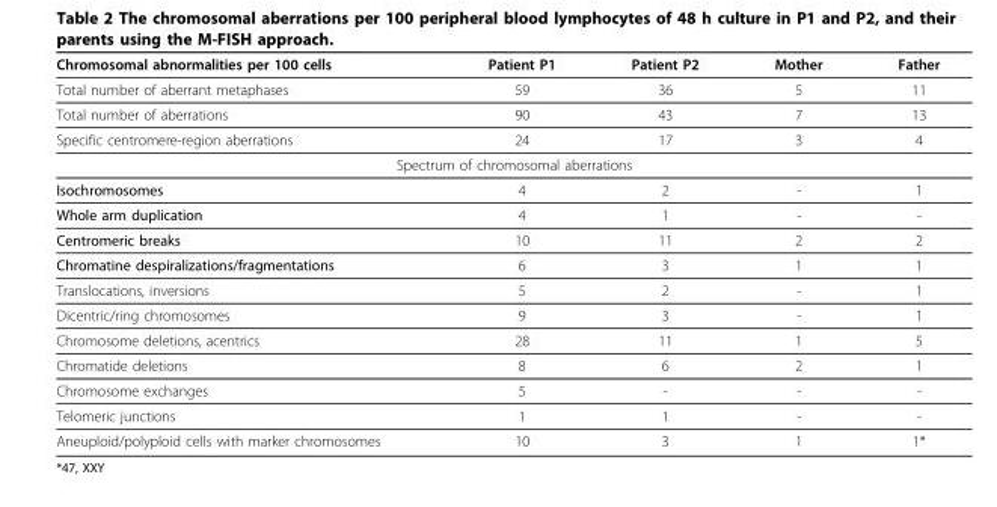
<table><thead><tr><td>Chromosomal abnormalities per 100 cells</td><td>Patient P1</td><td>Patient P2</td><td>Mother</td><td>Father</td></tr></thead><tbody><tr><td>Total number of aberrant metaphases</td><td>59</td><td>36</td><td>5</td><td>11</td></tr><tr><td>Total number of aberrations</td><td>90</td><td>43</td><td>7</td><td>13</td></tr><tr><td>Specific centromere-region aberrations</td><td>24</td><td>17</td><td>3</td><td>4</td></tr><tr><td colspan="5">Spectrum of chromosomal aberrations</td></tr><tr><td>Isochromosomes</td><td>4</td><td>2</td><td>-</td><td>1</td></tr><tr><td>Whole arm duplication</td><td>4</td><td>1</td><td>-</td><td>-</td></tr><tr><td>Centromeric breaks</td><td>10</td><td>11</td><td>2</td><td>2</td></tr><tr><td>Chromatine despiralizations/fragmentations</td><td>6</td><td>3</td><td>1</td><td>1</td></tr><tr><td>Translocations, inversions</td><td>5</td><td>2</td><td>-</td><td>1</td></tr><tr><td>Dicentric/ring chromosomes</td><td>9</td><td>3</td><td>-</td><td>1</td></tr><tr><td>Chromosome deletions, acentrics</td><td>28</td><td>11</td><td>1</td><td>5</td></tr><tr><td>Chromatide deletions</td><td>8</td><td>6</td><td>2</td><td>1</td></tr><tr><td>Chromosome exchanges</td><td>5</td><td>-</td><td>-</td><td>-</td></tr><tr><td>Telomeric junctions</td><td>1</td><td>1</td><td>-</td><td>-</td></tr><tr><td>Aneuploid/polyploid cells with marker chromosomes</td><td>10</td><td>3</td><td>1</td><td>1*</td></tr></tbody></table>